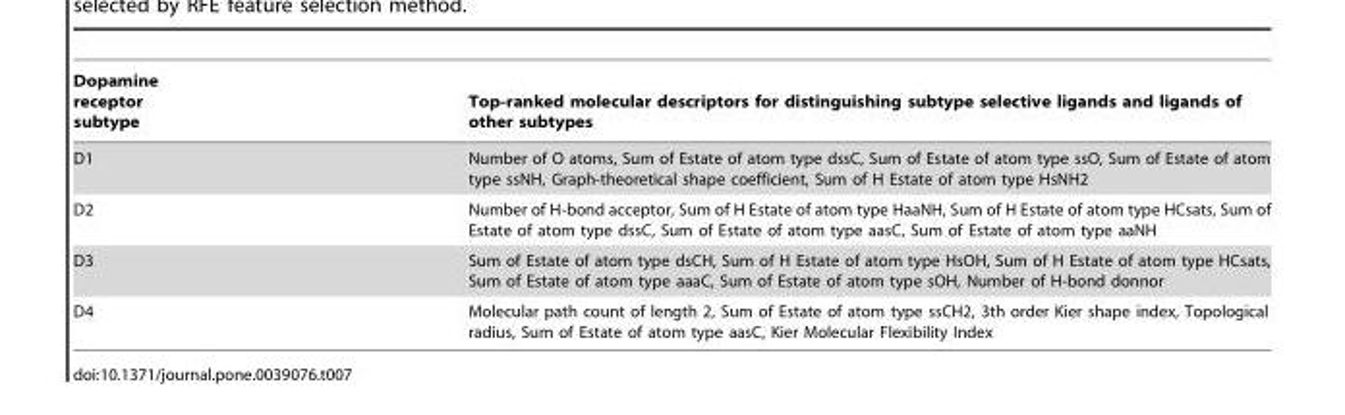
<table><thead><tr><td>Dopamine receptor subtype</td><td>Top-ranked molecular descriptors for distinguishing subtype selective ligands and ligands of other subtypes</td></tr></thead><tbody><tr><td>D1</td><td>Number of O atoms, Sum of Estate of atom type dssC, Sum of Estate of atom type ssO, Sum of Estate of atom type ssNH, Graph-theoretical shape coefficient, Sum of H Estate of atom type HsNH2</td></tr><tr><td>D2</td><td>Number of H-bond acceptor, Sum of H Estate of atom type HaaNH, Sum of H Estate of atom type HCsats, Sum of Estate of atom type dssC, Sum of Estate of atom type aasC, Sum of Estate of atom type aaNH</td></tr><tr><td>D3</td><td>Sum of Estate of atom type dsCH, Sum of H Estate of atom type HsOH, Sum of H Estate of atom type HCsats, Sum of Estate of atom type aaaC, Sum of Estate of atom type sOH, Number of H-bond donnor</td></tr><tr><td>D4</td><td>Molecular path count of length 2, Sum of Estate of atom type ssCH2, 3th order Kier shape index, Topological radius, Sum of Estate of atom type aasC, Kier Molecular Flexibility Index</td></tr></tbody></table>